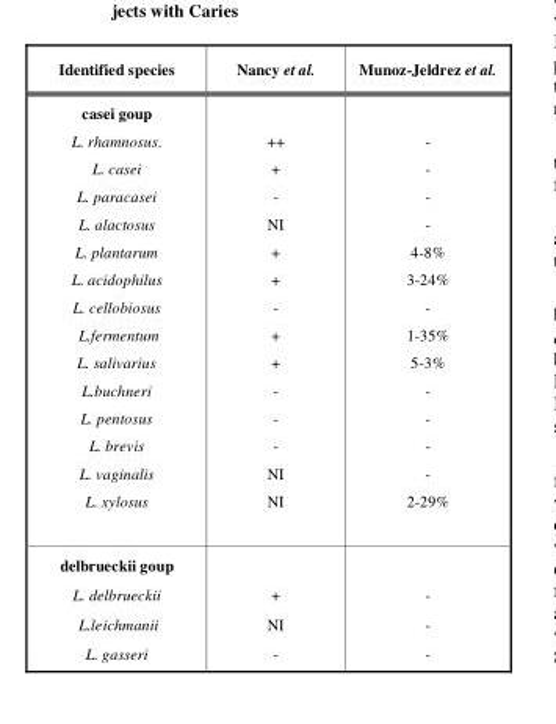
<table><thead><tr><td>Identified species</td><td>Nancy et al.</td><td>Munoz-Jeldrez et al.</td></tr></thead><tbody><tr><td>casei goup L. rhamnosus. L. casei L. paracasei L. alactosus L. plantarum L. acidophilus L. cellobiosus L.fermentum L. salivarius L.buchneri L. pentosus L. brevis L. vaginalis L. xylosus</td><td>++ + - NI + + - + + - - - NI NI</td><td>- - - - 4-8% 3-24% - 1-35% 5-3% - - - - 2-29%</td></tr><tr><td>delbrueckii goup L. delbrueckii L.leichmanii L. gasseri</td><td>+ NI -</td><td>- - -</td></tr></tbody></table>